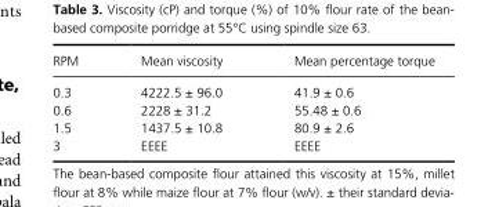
<table><thead><tr><td>RPM</td><td>Mean viscosity</td><td>Mean percentage torque</td></tr></thead><tbody><tr><td>0.3</td><td>4222.5 ± 96.0</td><td>41.9 ± 0.6</td></tr><tr><td>0.6</td><td>2228 ± 31.2</td><td>55.48 ± 0.6</td></tr><tr><td>1.5</td><td>1437.5 ± 10.8</td><td>80.9 ± 2.6</td></tr><tr><td>3</td><td>EEEE</td><td>EEEE</td></tr></tbody></table>